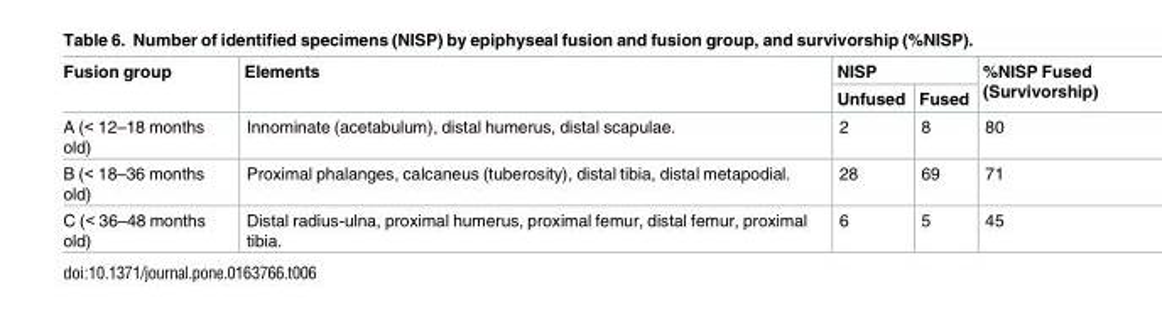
<table><thead><tr><td rowspan="2">Fusion group</td><td rowspan="2">Elements</td><td colspan="2">NISP</td><td rowspan="2">%NISP Fused (Survivorship)</td></tr><tr><td>Unfused</td><td>Fused</td></tr></thead><tbody><tr><td>A (&lt; 12–18 months old)</td><td>Innominate (acetabulum), distal humerus, distal scapulae.</td><td>2</td><td>8</td><td>80</td></tr><tr><td>B (&lt; 18–36 months old)</td><td>Proximal phalanges, calcaneus (tuberosity), distal tibia, distal metapodial.</td><td>28</td><td>69</td><td>71</td></tr><tr><td>C (&lt; 36–48 months old)</td><td>Distal radius-ulna, proximal humerus, proximal femur, distal femur, proximal tibia.</td><td>6</td><td>5</td><td>45</td></tr></tbody></table>